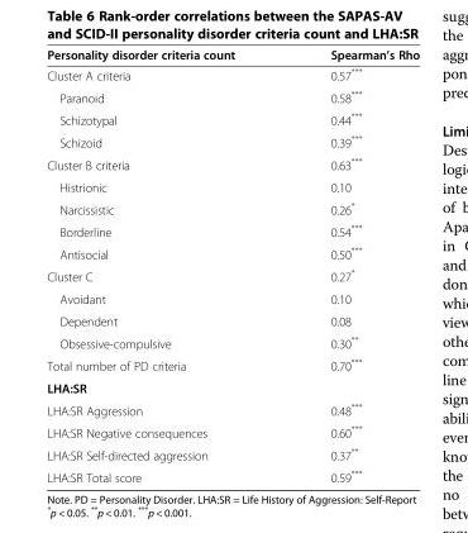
<table><thead><tr><td>Personality disorder criteria count</td><td>Spearman’s Rho</td></tr></thead><tbody><tr><td>Cluster A criteria</td><td>0.57***</td></tr><tr><td>Paranoid</td><td>0.58***</td></tr><tr><td>Schizotypal</td><td>0.44***</td></tr><tr><td>Schizoid</td><td>0.39***</td></tr><tr><td>Cluster B criteria</td><td>0.63***</td></tr><tr><td>Histrionic</td><td>0.10</td></tr><tr><td>Narcissistic</td><td>0.26*</td></tr><tr><td>Borderline</td><td>0.54***</td></tr><tr><td>Antisocial</td><td>0.50***</td></tr><tr><td>Cluster C</td><td>0.27*</td></tr><tr><td>Avoidant</td><td>0.10</td></tr><tr><td>Dependent</td><td>0.08</td></tr><tr><td>Obsessive-compulsive</td><td>0.30**</td></tr><tr><td>Total number of PD criteria</td><td>0.70***</td></tr><tr><td colspan="2">LHA:SR</td></tr><tr><td>LHA:SR Aggression</td><td>0.48***</td></tr><tr><td>LHA:SR Negative consequences</td><td>0.60***</td></tr><tr><td>LHA:SR Self-directed aggression</td><td>0.37**</td></tr><tr><td>LHA:SR Total score</td><td>0.59***</td></tr></tbody></table>